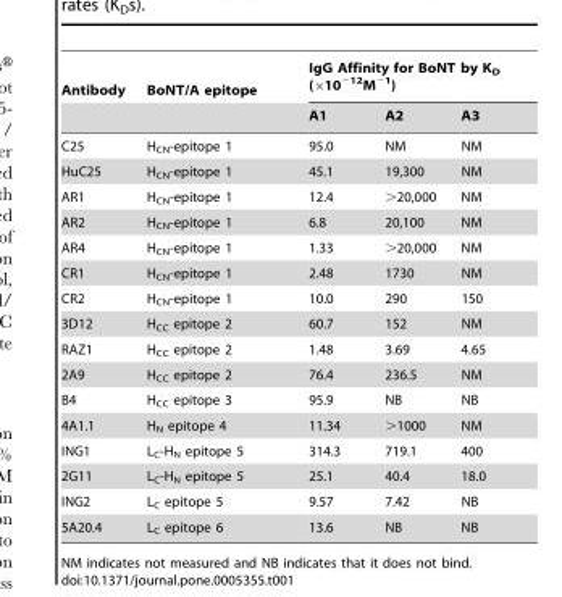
<table><thead><tr><td rowspan="2">Antibody</td><td rowspan="2">BoNT/A epitope</td><td colspan="3">IgG Affinity for BoNT by K<sub>D</sub> (×10<sup>−12</sup>M<sup>−1</sup>)</td></tr><tr><td>A1</td><td>A2</td><td>A3</td></tr></thead><tbody><tr><td>C25</td><td>H<sub>CN</sub>-epitope 1</td><td>95.0</td><td>NM</td><td>NM</td></tr><tr><td>HuC25</td><td>H<sub>CN</sub>-epitope 1</td><td>45.1</td><td>19,300</td><td>NM</td></tr><tr><td>AR1</td><td>H<sub>CN</sub>-epitope 1</td><td>12.4</td><td>&gt;20,000</td><td>NM</td></tr><tr><td>AR2</td><td>H<sub>CN</sub>-epitope 1</td><td>6.8</td><td>20,100</td><td>NM</td></tr><tr><td>AR4</td><td>H<sub>CN</sub>-epitope 1</td><td>1.33</td><td>&gt;20,000</td><td>NM</td></tr><tr><td>CR1</td><td>H<sub>CN</sub>-epitope 1</td><td>2.48</td><td>1730</td><td>NM</td></tr><tr><td>CR2</td><td>H<sub>CN</sub>-epitope 1</td><td>10.0</td><td>290</td><td>150</td></tr><tr><td>3D12</td><td>H<sub>CC</sub> epitope 2</td><td>60.7</td><td>152</td><td>NM</td></tr><tr><td>RAZ1</td><td>H<sub>CC</sub> epitope 2</td><td>1.48</td><td>3.69</td><td>4.65</td></tr><tr><td>2A9</td><td>H<sub>CC</sub> epitope 2</td><td>76.4</td><td>236.5</td><td>NM</td></tr><tr><td>B4</td><td>H<sub>CC</sub> epitope 3</td><td>95.9</td><td>NB</td><td>NB</td></tr><tr><td>4A1.1</td><td>H<sub>N</sub> epitope 4</td><td>11.34</td><td>&gt;1000</td><td>NM</td></tr><tr><td>ING1</td><td>L<sub>C</sub>-H<sub>N</sub> epitope 5</td><td>314.3</td><td>719.1</td><td>400</td></tr><tr><td>2G11</td><td>L<sub>C</sub>-H<sub>N</sub> epitope 5</td><td>25.1</td><td>40.4</td><td>18.0</td></tr><tr><td>ING2</td><td>L<sub>C</sub> epitope 5</td><td>9.57</td><td>7.42</td><td>NB</td></tr><tr><td>5A20.4</td><td>L<sub>C</sub> epitope 6</td><td>13.6</td><td>NB</td><td>NB</td></tr></tbody></table>